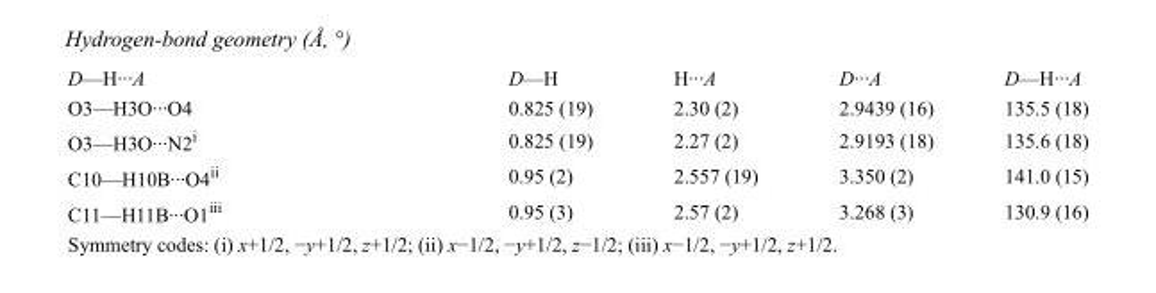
<table><tbody><tr><td>D—H···A</td><td>D—H</td><td>H···A</td><td>D···A</td><td>D—H···A</td></tr><tr><td>O3—H3O···O4</td><td>0.825 (19)</td><td>2.30 (2)</td><td>2.9439 (16)</td><td>135.5 (18)</td></tr><tr><td>O3—H3O···N2<sup>i</sup></td><td>0.825 (19)</td><td>2.27 (2)</td><td>2.9193 (18)</td><td>135.6 (18)</td></tr><tr><td>C10—H10B···O4<sup>ii</sup></td><td>0.95 (2)</td><td>2.557 (19)</td><td>3.350 (2)</td><td>141.0 (15)</td></tr><tr><td>C11—H11B···O1<sup>iii</sup></td><td>0.95 (3)</td><td>2.57 (2)</td><td>3.268 (3)</td><td>130.9 (16)</td></tr></tbody></table>